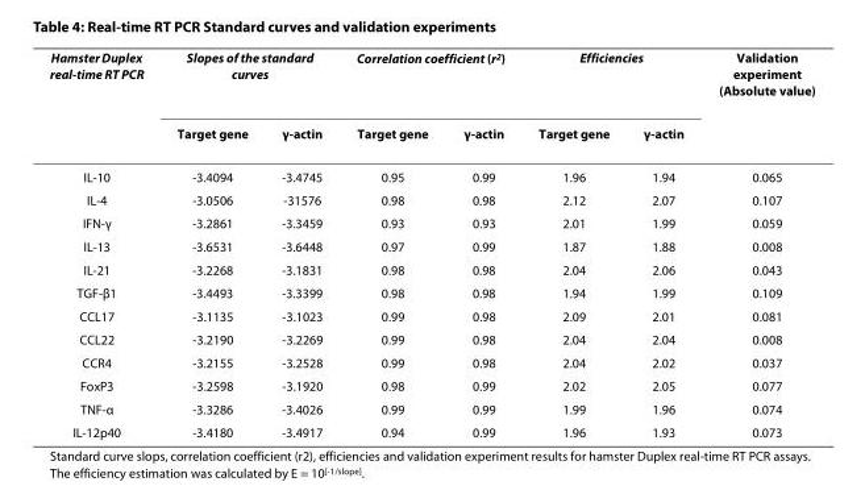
<table><thead><tr><td rowspan="2">Hamster Duplex real-time RT PCR</td><td colspan="2">Slopes of the standard curves</td><td colspan="2">Correlation coefficient (r<sup>2</sup>)</td><td colspan="2">Efficiencies</td><td rowspan="2">Validation experiment (Absolute value)</td></tr><tr><td>Target gene</td><td>γ-actin</td><td>Target gene</td><td>γ-actin</td><td>Target gene</td><td>γ-actin</td></tr></thead><tbody><tr><td>IL-10</td><td>-3.4094</td><td>-3.4745</td><td>0.95</td><td>0.99</td><td>1.96</td><td>1.94</td><td>0.065</td></tr><tr><td>IL-4</td><td>-3.0506</td><td>-31576</td><td>0.98</td><td>0.98</td><td>2.12</td><td>2.07</td><td>0.107</td></tr><tr><td>IFN-γ</td><td>-3.2861</td><td>-3.3459</td><td>0.93</td><td>0.93</td><td>2.01</td><td>1.99</td><td>0.059</td></tr><tr><td>IL-13</td><td>-3.6531</td><td>-3.6448</td><td>0.97</td><td>0.99</td><td>1.87</td><td>1.88</td><td>0.008</td></tr><tr><td>IL-21</td><td>-3.2268</td><td>-3.1831</td><td>0.98</td><td>0.98</td><td>2.04</td><td>2.06</td><td>0.043</td></tr><tr><td>TGF-β1</td><td>-3.4493</td><td>-3.3399</td><td>0.98</td><td>0.98</td><td>1.94</td><td>1.99</td><td>0.109</td></tr><tr><td>CCL17</td><td>-3.1135</td><td>-3.1023</td><td>0.99</td><td>0.98</td><td>2.09</td><td>2.01</td><td>0.081</td></tr><tr><td>CCL22</td><td>-3.2190</td><td>-3.2269</td><td>0.99</td><td>0.98</td><td>2.04</td><td>2.04</td><td>0.008</td></tr><tr><td>CCR4</td><td>-3.2155</td><td>-3.2528</td><td>0.99</td><td>0.98</td><td>2.04</td><td>2.02</td><td>0.037</td></tr><tr><td>FoxP3</td><td>-3.2598</td><td>-3.1920</td><td>0.98</td><td>0.99</td><td>2.02</td><td>2.05</td><td>0.077</td></tr><tr><td>TNF-α</td><td>-3.3286</td><td>-3.4026</td><td>0.99</td><td>0.99</td><td>1.99</td><td>1.96</td><td>0.074</td></tr><tr><td>IL-12p40</td><td>-3.4180</td><td>-3.4917</td><td>0.94</td><td>0.99</td><td>1.96</td><td>1.93</td><td>0.073</td></tr></tbody></table>